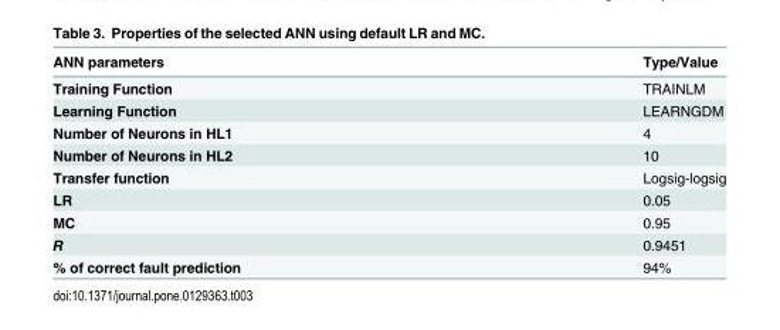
<table><thead><tr><td>ANN parameters</td><td>Type/Value</td></tr></thead><tbody><tr><td>Training Function</td><td>TRAINLM</td></tr><tr><td>Learning Function</td><td>LEARNGDM</td></tr><tr><td>Number of Neurons in HL1</td><td>4</td></tr><tr><td>Number of Neurons in HL2</td><td>10</td></tr><tr><td>Transfer function</td><td>Logsig-logsig</td></tr><tr><td>LR</td><td>0.05</td></tr><tr><td>MC</td><td>0.95</td></tr><tr><td>R</td><td>0.9451</td></tr><tr><td>% of correct fault prediction</td><td>94%</td></tr></tbody></table>